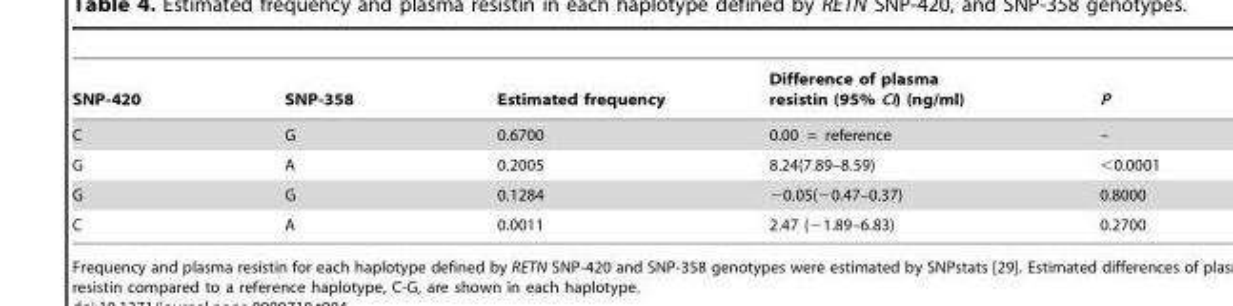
<table><thead><tr><td>SNP-420</td><td>SNP-358</td><td>Estimated frequency</td><td>Difference of plasma resistin (95% CI) (ng/ml)</td><td>P</td></tr></thead><tbody><tr><td>C</td><td>G</td><td>0.6700</td><td>0.00 = reference</td><td>–</td></tr><tr><td>G</td><td>A</td><td>0.2005</td><td>8.24(7.89–8.59)</td><td>&lt;0.0001</td></tr><tr><td>G</td><td>G</td><td>0.1284</td><td>−0.05(−0.47–0.37)</td><td>0.8000</td></tr><tr><td>C</td><td>A</td><td>0.0011</td><td>2.47 (−1.89–6.83)</td><td>0.2700</td></tr></tbody></table>